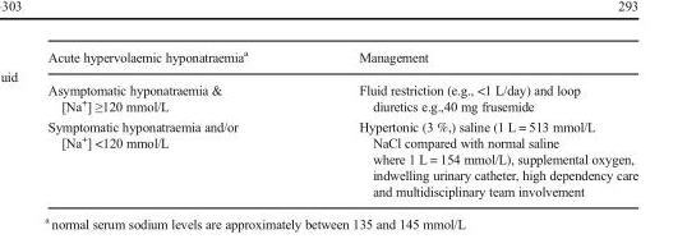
<table><thead><tr><td>Acute hypervolaemic hyponatraemia<sup>a</sup></td><td>Management</td></tr></thead><tbody><tr><td>Asymptomatic hyponatraemia &amp; [Na<sup>+</sup>] ≥120 mmol/L</td><td>Fluid restriction (e.g., &lt;1 L/day) and loop diuretics e.g.,40 mg frusemide</td></tr><tr><td>Symptomatic hyponatraemia and/or [Na<sup>+</sup>] &lt;120 mmol/L</td><td>Hypertonic (3 %,) saline (1 L = 513 mmol/L NaCl compared with normal saline where 1 L = 154 mmol/L), supplemental oxygen, indwelling urinary catheter, high dependency care and multidisciplinary team involvement</td></tr></tbody></table>